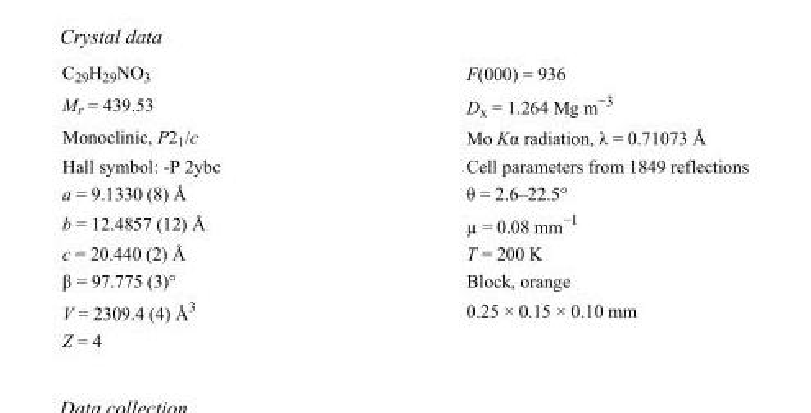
<table><tbody><tr><td>C<sub>29</sub>H<sub>29</sub>NO<sub>3</sub></td><td>F(000) = 936</td></tr><tr><td>M<sub>r</sub> = 439.53</td><td>D<sub>x</sub> = 1.264 Mg m<sup>−3</sup></td></tr><tr><td>Monoclinic, P2<sub>1</sub>/c</td><td>Mo Kα radiation, λ = 0.71073 Å</td></tr><tr><td>Hall symbol: -P 2ybc</td><td>Cell parameters from 1849 reflections</td></tr><tr><td>a = 9.1330 (8) Å</td><td>θ = 2.6–22.5°</td></tr><tr><td>b = 12.4857 (12) Å</td><td>µ = 0.08 mm<sup>−1</sup></td></tr><tr><td>c = 20.440 (2) Å</td><td>T = 200 K</td></tr><tr><td>β = 97.775 (3)°</td><td>Block, orange</td></tr><tr><td>V = 2309.4 (4) Å<sup>3</sup></td><td>0.25 × 0.15 × 0.10 mm</td></tr><tr><td>Z = 4</td><td></td></tr></tbody></table>